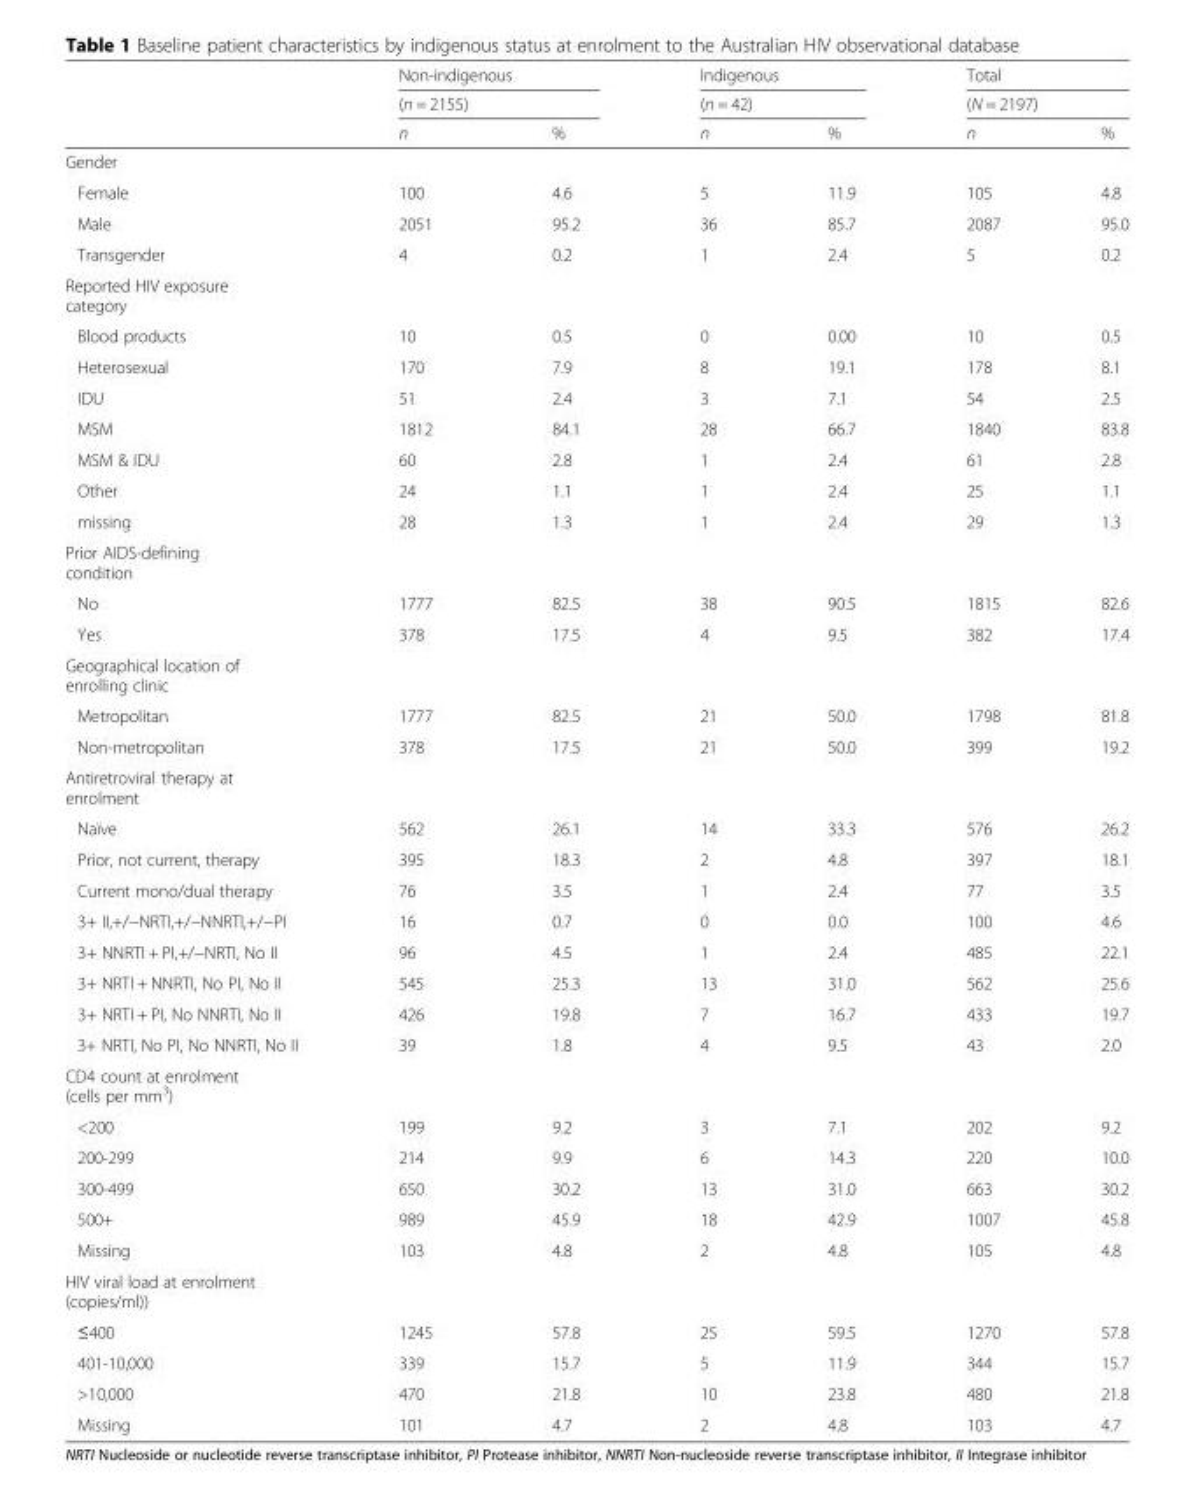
<table><thead><tr><td rowspan="3"></td><td rowspan="2" colspan="2">Non-indigenous (n = 2155)</td><td rowspan="2" colspan="2">Indigenous (n = 42)</td><td rowspan="2" colspan="2">Total (N = 2197)</td></tr><tr></tr><tr><td>n</td><td>%</td><td>n</td><td>%</td><td>n</td><td>%</td></tr></thead><tbody><tr><td colspan="7">Gender</td></tr><tr><td>Female</td><td>100</td><td>4.6</td><td>5</td><td>11.9</td><td>105</td><td>4.8</td></tr><tr><td>Male</td><td>2051</td><td>95.2</td><td>36</td><td>85.7</td><td>2087</td><td>95.0</td></tr><tr><td>Transgender</td><td>4</td><td>0.2</td><td>1</td><td>2.4</td><td>5</td><td>0.2</td></tr><tr><td colspan="7">Reported HIV exposure category</td></tr><tr><td>Blood products</td><td>10</td><td>0.5</td><td>0</td><td>0.00</td><td>10</td><td>0.5</td></tr><tr><td>Heterosexual</td><td>170</td><td>7.9</td><td>8</td><td>19.1</td><td>178</td><td>8.1</td></tr><tr><td>IDU</td><td>51</td><td>2.4</td><td>3</td><td>7.1</td><td>54</td><td>2.5</td></tr><tr><td>MSM</td><td>1812</td><td>84.1</td><td>28</td><td>66.7</td><td>1840</td><td>83.8</td></tr><tr><td>MSM &amp; IDU</td><td>60</td><td>2.8</td><td>1</td><td>2.4</td><td>61</td><td>2.8</td></tr><tr><td>Other</td><td>24</td><td>1.1</td><td>1</td><td>2.4</td><td>25</td><td>1.1</td></tr><tr><td>missing</td><td>28</td><td>1.3</td><td>1</td><td>2.4</td><td>29</td><td>1.3</td></tr><tr><td colspan="7">Prior AIDS-defining condition</td></tr><tr><td>No</td><td>1777</td><td>82.5</td><td>38</td><td>90.5</td><td>1815</td><td>82.6</td></tr><tr><td>Yes</td><td>378</td><td>17.5</td><td>4</td><td>9.5</td><td>382</td><td>17.4</td></tr><tr><td colspan="7">Geographical location of enrolling clinic</td></tr><tr><td>Metropolitan</td><td>1777</td><td>82.5</td><td>21</td><td>50.0</td><td>1798</td><td>81.8</td></tr><tr><td>Non-metropolitan</td><td>378</td><td>17.5</td><td>21</td><td>50.0</td><td>399</td><td>19.2</td></tr><tr><td colspan="7">Antiretroviral therapy at enrolment</td></tr><tr><td>Naïve</td><td>562</td><td>26.1</td><td>14</td><td>33.3</td><td>576</td><td>26.2</td></tr><tr><td>Prior, not current, therapy</td><td>395</td><td>18.3</td><td>2</td><td>4.8</td><td>397</td><td>18.1</td></tr><tr><td>Current mono/dual therapy</td><td>76</td><td>3.5</td><td>1</td><td>2.4</td><td>77</td><td>3.5</td></tr><tr><td>3+ II,+/−NRTI,+/−NNRTI,+/−PI</td><td>16</td><td>0.7</td><td>0</td><td>0.0</td><td>100</td><td>4.6</td></tr><tr><td>3+ NNRTI + PI,+/−NRTI, No II</td><td>96</td><td>4.5</td><td>1</td><td>2.4</td><td>485</td><td>22.1</td></tr><tr><td>3+ NRTI + NNRTI, No PI, No II</td><td>545</td><td>25.3</td><td>13</td><td>31.0</td><td>562</td><td>25.6</td></tr><tr><td>3+ NRTI + PI, No NNRTI, No II</td><td>426</td><td>19.8</td><td>7</td><td>16.7</td><td>433</td><td>19.7</td></tr><tr><td>3+ NRTI, No PI, No NNRTI, No II</td><td>39</td><td>1.8</td><td>4</td><td>9.5</td><td>43</td><td>2.0</td></tr><tr><td colspan="7">CD4 count at enrolment (cells per mm<sup>3</sup>)</td></tr><tr><td>&lt;200</td><td>199</td><td>9.2</td><td>3</td><td>7.1</td><td>202</td><td>9.2</td></tr><tr><td>200-299</td><td>214</td><td>9.9</td><td>6</td><td>14.3</td><td>220</td><td>10.0</td></tr><tr><td>300-499</td><td>650</td><td>30.2</td><td>13</td><td>31.0</td><td>663</td><td>30.2</td></tr><tr><td>500+</td><td>989</td><td>45.9</td><td>18</td><td>42.9</td><td>1007</td><td>45.8</td></tr><tr><td>Missing</td><td>103</td><td>4.8</td><td>2</td><td>4.8</td><td>105</td><td>4.8</td></tr><tr><td colspan="7">HIV viral load at enrolment (copies/ml))</td></tr><tr><td>≤400</td><td>1245</td><td>57.8</td><td>25</td><td>59.5</td><td>1270</td><td>57.8</td></tr><tr><td>401-10,000</td><td>339</td><td>15.7</td><td>5</td><td>11.9</td><td>344</td><td>15.7</td></tr><tr><td>&gt;10,000</td><td>470</td><td>21.8</td><td>10</td><td>23.8</td><td>480</td><td>21.8</td></tr><tr><td>Missing</td><td>101</td><td>4.7</td><td>2</td><td>4.8</td><td>103</td><td>4.7</td></tr></tbody></table>